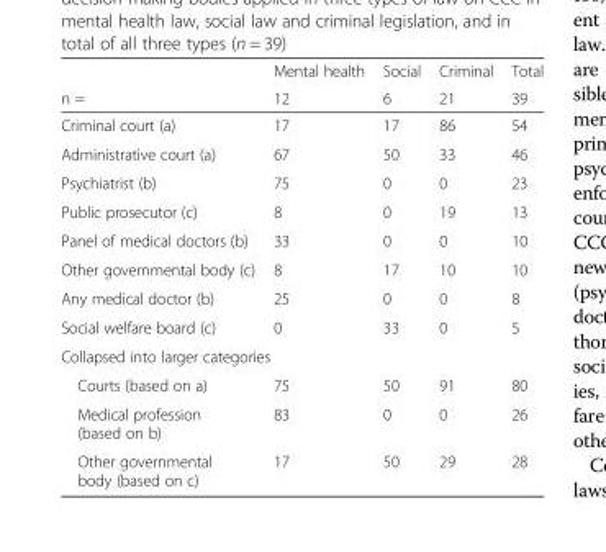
<table><thead><tr><td rowspan="2">n =</td><td rowspan="2">Mental health 12</td><td rowspan="2">Social 6</td><td rowspan="2">Criminal 21</td><td rowspan="2">Total 39</td></tr><tr></tr></thead><tbody><tr><td>Criminal court (a)</td><td>17</td><td>17</td><td>86</td><td>54</td></tr><tr><td>Administrative court (a)</td><td>67</td><td>50</td><td>33</td><td>46</td></tr><tr><td>Psychiatrist (b)</td><td>75</td><td>0</td><td>0</td><td>23</td></tr><tr><td>Public prosecutor (c)</td><td>8</td><td>0</td><td>19</td><td>13</td></tr><tr><td>Panel of medical doctors (b)</td><td>33</td><td>0</td><td>0</td><td>10</td></tr><tr><td>Other governmental body (c)</td><td>8</td><td>17</td><td>10</td><td>10</td></tr><tr><td>Any medical doctor (b)</td><td>25</td><td>0</td><td>0</td><td>8</td></tr><tr><td>Social welfare board (c)</td><td>0</td><td>33</td><td>0</td><td>5</td></tr><tr><td colspan="5">Collapsed into larger categories</td></tr><tr><td>Courts (based on a)</td><td>75</td><td>50</td><td>91</td><td>80</td></tr><tr><td>Medical profession (based on b)</td><td>83</td><td>0</td><td>0</td><td>26</td></tr><tr><td>Other governmental body (based on c)</td><td>17</td><td>50</td><td>29</td><td>28</td></tr></tbody></table>